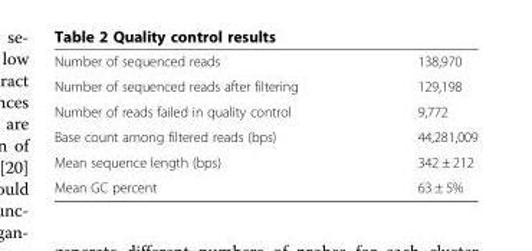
<table><tbody><tr><td>Number of sequenced reads</td><td>138,970</td></tr><tr><td>Number of sequenced reads after filtering</td><td>129,198</td></tr><tr><td>Number of reads failed in quality control</td><td>9,772</td></tr><tr><td>Base count among filtered reads (bps)</td><td>44,281,009</td></tr><tr><td>Mean sequence length (bps)</td><td>342 ± 212</td></tr><tr><td>Mean GC percent</td><td>63 ± 5%</td></tr></tbody></table>